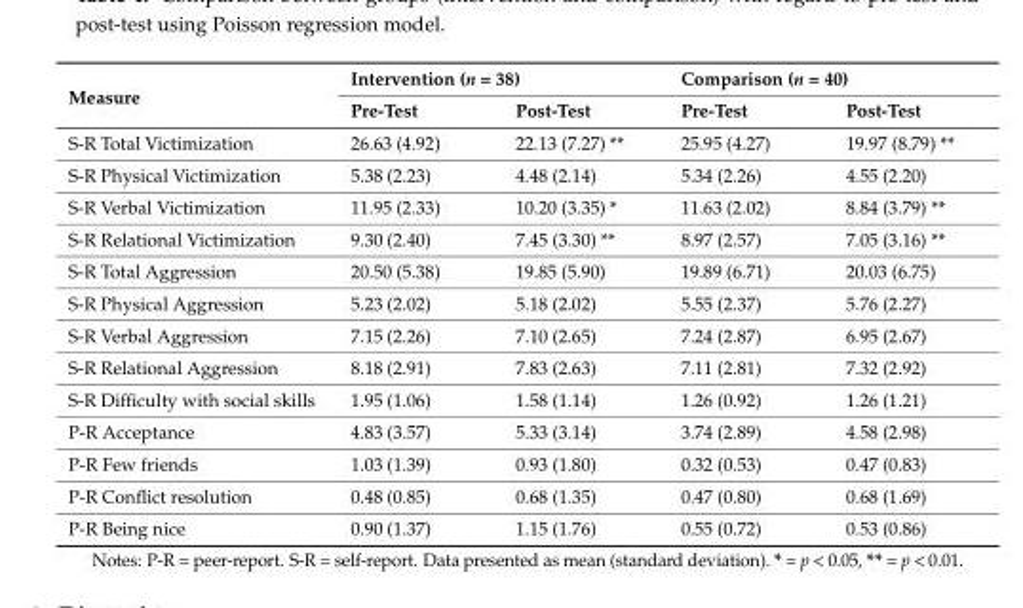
<table><thead><tr><td rowspan="2">Measure</td><td colspan="2">Intervention (n = 38)</td><td colspan="2">Comparison (n = 40)</td></tr><tr><td>Pre-Test</td><td>Post-Test</td><td>Pre-Test</td><td>Post-Test</td></tr></thead><tbody><tr><td>S-R Total Victimization</td><td>26.63 (4.92)</td><td>22.13 (7.27) **</td><td>25.95 (4.27)</td><td>19.97 (8.79) **</td></tr><tr><td>S-R Physical Victimization</td><td>5.38 (2.23)</td><td>4.48 (2.14)</td><td>5.34 (2.26)</td><td>4.55 (2.20)</td></tr><tr><td>S-R Verbal Victimization</td><td>11.95 (2.33)</td><td>10.20 (3.35) *</td><td>11.63 (2.02)</td><td>8.84 (3.79) **</td></tr><tr><td>S-R Relational Victimization</td><td>9.30 (2.40)</td><td>7.45 (3.30) **</td><td>8.97 (2.57)</td><td>7.05 (3.16) **</td></tr><tr><td>S-R Total Aggression</td><td>20.50 (5.38)</td><td>19.85 (5.90)</td><td>19.89 (6.71)</td><td>20.03 (6.75)</td></tr><tr><td>S-R Physical Aggression</td><td>5.23 (2.02)</td><td>5.18 (2.02)</td><td>5.55 (2.37)</td><td>5.76 (2.27)</td></tr><tr><td>S-R Verbal Aggression</td><td>7.15 (2.26)</td><td>7.10 (2.65)</td><td>7.24 (2.87)</td><td>6.95 (2.67)</td></tr><tr><td>S-R Relational Aggression</td><td>8.18 (2.91)</td><td>7.83 (2.63)</td><td>7.11 (2.81)</td><td>7.32 (2.92)</td></tr><tr><td>S-R Difficulty with social skills</td><td>1.95 (1.06)</td><td>1.58 (1.14)</td><td>1.26 (0.92)</td><td>1.26 (1.21)</td></tr><tr><td>P-R Acceptance</td><td>4.83 (3.57)</td><td>5.33 (3.14)</td><td>3.74 (2.89)</td><td>4.58 (2.98)</td></tr><tr><td>P-R Few friends</td><td>1.03 (1.39)</td><td>0.93 (1.80)</td><td>0.32 (0.53)</td><td>0.47 (0.83)</td></tr><tr><td>P-R Conflict resolution</td><td>0.48 (0.85)</td><td>0.68 (1.35)</td><td>0.47 (0.80)</td><td>0.68 (1.69)</td></tr><tr><td>P-R Being nice</td><td>0.90 (1.37)</td><td>1.15 (1.76)</td><td>0.55 (0.72)</td><td>0.53 (0.86)</td></tr></tbody></table>